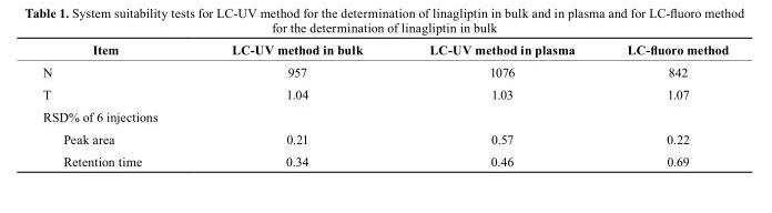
<table><thead><tr><td>Item</td><td>Lc-UV method in bulk</td><td>Lc-UV method in plasma</td><td>LC-fluoro method</td></tr></thead><tbody><tr><td>N</td><td>957</td><td>1076</td><td>842</td></tr><tr><td>T</td><td>1.04</td><td>1.03</td><td>1.07</td></tr><tr><td colspan="4">RSD% of 6 injections</td></tr><tr><td>Peak area</td><td>0.21</td><td>0.57</td><td>0.22</td></tr><tr><td>Retention time</td><td>0.34</td><td>0.46</td><td>0.69</td></tr></tbody></table>